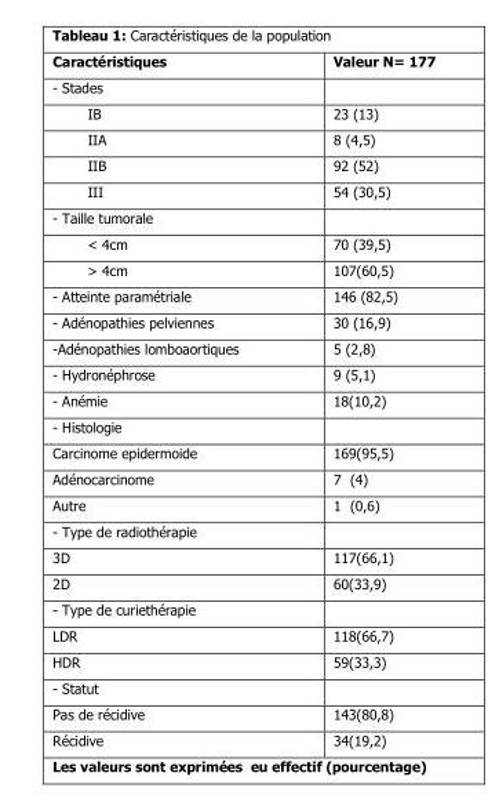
<table><thead><tr><td>Caractéristiques</td><td>Valeur N= 177</td></tr></thead><tbody><tr><td colspan="2">- Stades</td></tr><tr><td>IB</td><td>23 (13)</td></tr><tr><td>IIA</td><td>8 (4,5)</td></tr><tr><td>IIB</td><td>92 (52)</td></tr><tr><td>III</td><td>54 (30,5)</td></tr><tr><td colspan="2">- Taille tumorale</td></tr><tr><td>&lt; 4cm</td><td>70 (39,5)</td></tr><tr><td>&gt; 4cm</td><td>107(60,5)</td></tr><tr><td>- Atteinte paramétriale</td><td>146 (82,5)</td></tr><tr><td>- Adénopathies pelviennes</td><td>30 (16,9)</td></tr><tr><td>-Adénopathies lomboaortiques</td><td>5 (2,8)</td></tr><tr><td>- Hydronéphrose</td><td>9 (5,1)</td></tr><tr><td>- Anémie</td><td>18(10,2)</td></tr><tr><td colspan="2">- Histologie</td></tr><tr><td>Carcinome epidermoide</td><td>169(95,5)</td></tr><tr><td>Adénocarcinome</td><td>7 (4)</td></tr><tr><td>Autre</td><td>1 (0,6)</td></tr><tr><td colspan="2">- Type de radiothérapie</td></tr><tr><td>3D</td><td>117(66,1)</td></tr><tr><td>2D</td><td>60(33,9)</td></tr><tr><td colspan="2">- Type de curiethérapie</td></tr><tr><td>LDR</td><td>118(66,7)</td></tr><tr><td>HDR</td><td>59(33,3)</td></tr><tr><td colspan="2">- Statut</td></tr><tr><td>Pas de récidive</td><td>143(80,8)</td></tr><tr><td>Récidive</td><td>34(19,2)</td></tr></tbody></table>